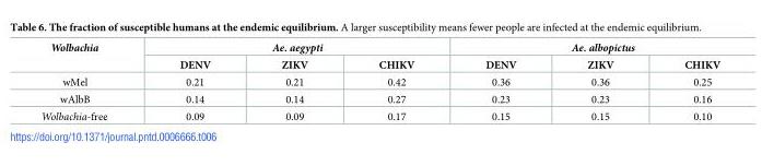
<table><thead><tr><td rowspan="2">Wolbachia</td><td colspan="3">Ae. aegypti</td><td colspan="3">Ae. albopictus</td></tr><tr><td>DENV</td><td>ZIKV</td><td>CHIKV</td><td>DENV</td><td>ZIKV</td><td>CHIKV</td></tr></thead><tbody><tr><td>wMel</td><td>0.21</td><td>0.21</td><td>0.42</td><td>0.36</td><td>0.36</td><td>0.25</td></tr><tr><td>wAlbB</td><td>0.14</td><td>0.14</td><td>0.27</td><td>0.23</td><td>0.23</td><td>0.16</td></tr><tr><td>Wolbachia-free</td><td>0.09</td><td>0.09</td><td>0.17</td><td>0.15</td><td>0.15</td><td>0.10</td></tr></tbody></table>